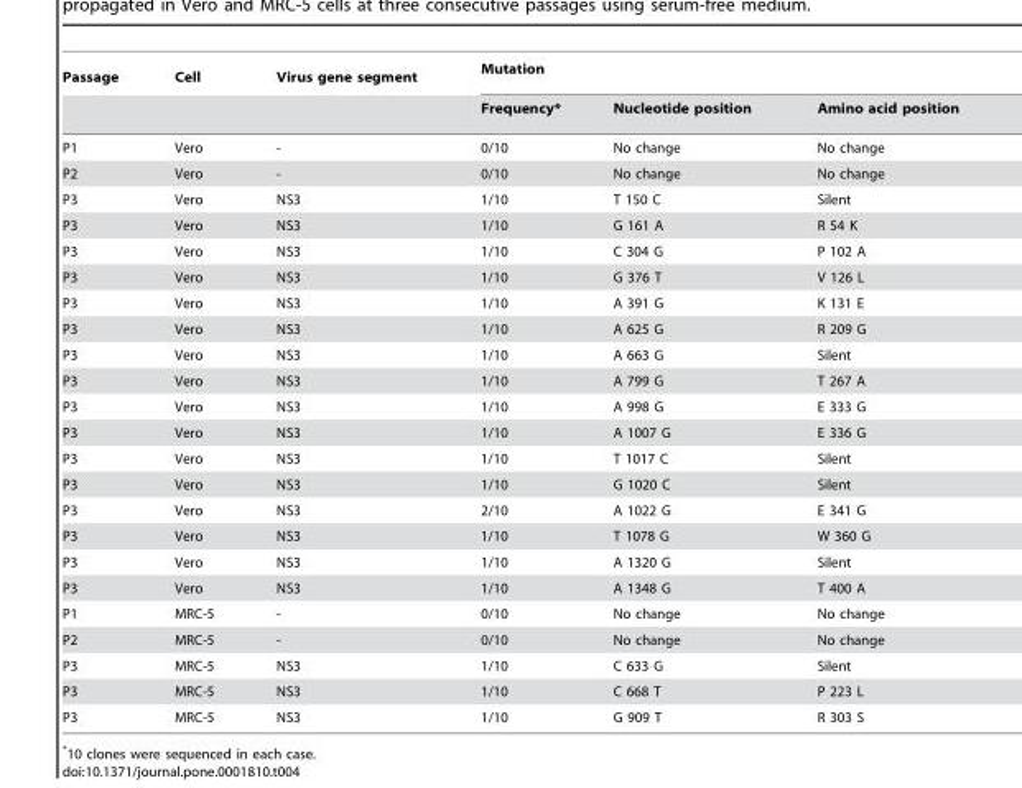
<table><thead><tr><td rowspan="2">Passage</td><td rowspan="2">Cell</td><td rowspan="2">Virus gene segment</td><td colspan="3">Mutation</td></tr><tr><td>Frequency*</td><td>Nucleotide position</td><td>Amino acid position</td></tr></thead><tbody><tr><td>P1</td><td>Vero</td><td>-</td><td>0/10</td><td>No change</td><td>No change</td></tr><tr><td>P2</td><td>Vero</td><td>-</td><td>0/10</td><td>No change</td><td>No change</td></tr><tr><td>P3</td><td>Vero</td><td>NS3</td><td>1/10</td><td>T 150 C</td><td>Silent</td></tr><tr><td>P3</td><td>Vero</td><td>NS3</td><td>1/10</td><td>G 161 A</td><td>R 54 K</td></tr><tr><td>P3</td><td>Vero</td><td>NS3</td><td>1/10</td><td>C 304 G</td><td>P 102 A</td></tr><tr><td>P3</td><td>Vero</td><td>NS3</td><td>1/10</td><td>G 376 T</td><td>V 126 L</td></tr><tr><td>P3</td><td>Vero</td><td>NS3</td><td>1/10</td><td>A 391 G</td><td>K 131 E</td></tr><tr><td>P3</td><td>Vero</td><td>NS3</td><td>1/10</td><td>A 625 G</td><td>R 209 G</td></tr><tr><td>P3</td><td>Vero</td><td>NS3</td><td>1/10</td><td>A 663 G</td><td>Silent</td></tr><tr><td>P3</td><td>Vero</td><td>NS3</td><td>1/10</td><td>A 799 G</td><td>T 267 A</td></tr><tr><td>P3</td><td>Vero</td><td>NS3</td><td>1/10</td><td>A 998 G</td><td>E 333 G</td></tr><tr><td>P3</td><td>Vero</td><td>NS3</td><td>1/10</td><td>A 1007 G</td><td>E 336 G</td></tr><tr><td>P3</td><td>Vero</td><td>NS3</td><td>1/10</td><td>T 1017 C</td><td>Silent</td></tr><tr><td>P3</td><td>Vero</td><td>NS3</td><td>1/10</td><td>G 1020 C</td><td>Silent</td></tr><tr><td>P3</td><td>Vero</td><td>NS3</td><td>2/10</td><td>A 1022 G</td><td>E 341 G</td></tr><tr><td>P3</td><td>Vero</td><td>NS3</td><td>1/10</td><td>T 1078 G</td><td>W 360 G</td></tr><tr><td>P3</td><td>Vero</td><td>NS3</td><td>1/10</td><td>A 1320 G</td><td>Silent</td></tr><tr><td>P3</td><td>Vero</td><td>NS3</td><td>1/10</td><td>A 1348 G</td><td>T 400 A</td></tr><tr><td>P1</td><td>MRC-5</td><td>-</td><td>0/10</td><td>No change</td><td>No change</td></tr><tr><td>P2</td><td>MRC-5</td><td>-</td><td>0/10</td><td>No change</td><td>No change</td></tr><tr><td>P3</td><td>MRC-5</td><td>NS3</td><td>1/10</td><td>C 633 G</td><td>Silent</td></tr><tr><td>P3</td><td>MRC-5</td><td>NS3</td><td>1/10</td><td>C 668 T</td><td>P 223 L</td></tr><tr><td>P3</td><td>MRC-5</td><td>NS3</td><td>1/10</td><td>G 909 T</td><td>R 303 S</td></tr></tbody></table>